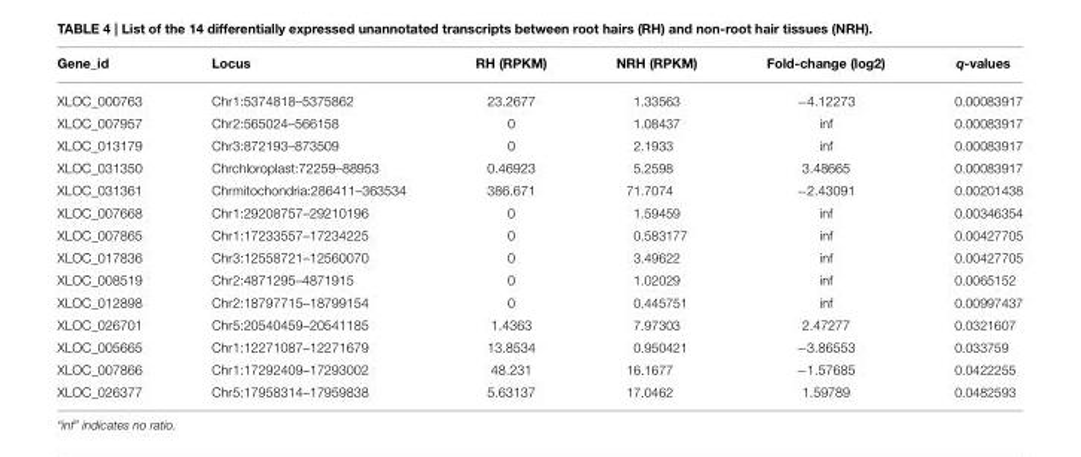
<table><thead><tr><td>Gene_id</td><td>Locus</td><td>RH (RPKM)</td><td>NRH (RPKM)</td><td>Fold-change (log2)</td><td>q-values</td></tr></thead><tbody><tr><td>XLOC_000763</td><td>Chr1:5374818–5375862</td><td>23.2677</td><td>1.33563</td><td>−4.12273</td><td>0.00083917</td></tr><tr><td>XLOC_007957</td><td>Chr2:565024–566158</td><td>0</td><td>1.08437</td><td>inf</td><td>0.00083917</td></tr><tr><td>XLOC_013179</td><td>Chr3:872193–873509</td><td>0</td><td>2.1933</td><td>inf</td><td>0.00083917</td></tr><tr><td>XLOC_031350</td><td>Chrchloroplast:72259–88953</td><td>0.46923</td><td>5.2598</td><td>3.48665</td><td>0.00083917</td></tr><tr><td>XLOC_031361</td><td>Chrmitochondria:286411–363534</td><td>386.671</td><td>71.7074</td><td>−2.43091</td><td>0.00201438</td></tr><tr><td>XLOC_007668</td><td>Chr1:29208757–29210196</td><td>0</td><td>1.59459</td><td>inf</td><td>0.00346354</td></tr><tr><td>XLOC_007865</td><td>Chr1:17233557–17234225</td><td>0</td><td>0.583177</td><td>inf</td><td>0.00427705</td></tr><tr><td>XLOC_017836</td><td>Chr3:12558721–12560070</td><td>0</td><td>3.49622</td><td>inf</td><td>0.00427705</td></tr><tr><td>XLOC_008519</td><td>Chr2:4871295–4871915</td><td>0</td><td>1.02029</td><td>inf</td><td>0.0065152</td></tr><tr><td>XLOC_012898</td><td>Chr2:18797715–18799154</td><td>0</td><td>0.445751</td><td>inf</td><td>0.00997437</td></tr><tr><td>XLOC_026701</td><td>Chr5:20540459–20541185</td><td>1.4363</td><td>7.97303</td><td>2.47277</td><td>0.0321607</td></tr><tr><td>XLOC_005665</td><td>Chr1:12271087–12271679</td><td>13.8534</td><td>0.950421</td><td>−3.86553</td><td>0.033759</td></tr><tr><td>XLOC_007866</td><td>Chr1:17292409–17293002</td><td>48.231</td><td>16.1677</td><td>−1.57685</td><td>0.0422255</td></tr><tr><td>XLOC_026377</td><td>Chr5:17958314–17959838</td><td>5.63137</td><td>17.0462</td><td>1.59789</td><td>0.0482593</td></tr></tbody></table>